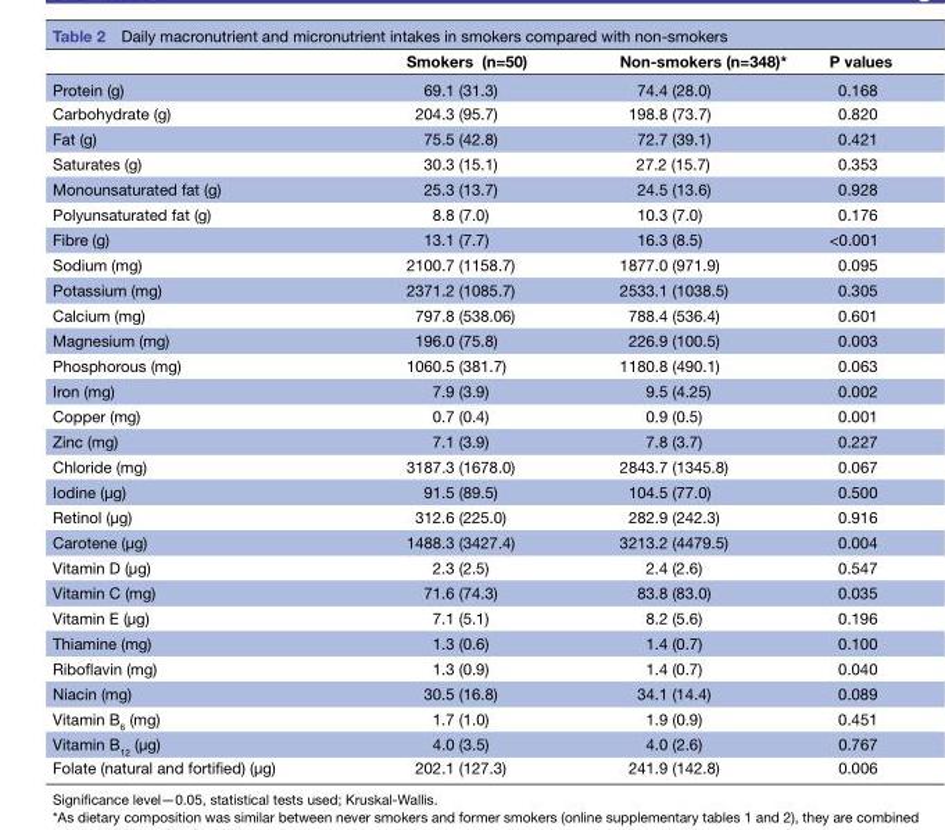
<table><thead><tr><td></td><td>Smokers (n=50)</td><td>Non-smokers (n=348)*</td><td>P values</td></tr></thead><tbody><tr><td>Protein (g)</td><td>69.1 (31.3)</td><td>74.4 (28.0)</td><td>0.168</td></tr><tr><td>Carbohydrate (g)</td><td>204.3 (95.7)</td><td>198.8 (73.7)</td><td>0.820</td></tr><tr><td>Fat (g)</td><td>75.5 (42.8)</td><td>72.7 (39.1)</td><td>0.421</td></tr><tr><td>Saturates (g)</td><td>30.3 (15.1)</td><td>27.2 (15.7)</td><td>0.353</td></tr><tr><td>Monounsaturated fat (g)</td><td>25.3 (13.7)</td><td>24.5 (13.6)</td><td>0.928</td></tr><tr><td>Polyunsaturated fat (g)</td><td>8.8 (7.0)</td><td>10.3 (7.0)</td><td>0.176</td></tr><tr><td>Fibre (g)</td><td>13.1 (7.7)</td><td>16.3 (8.5)</td><td>&lt;0.001</td></tr><tr><td>Sodium (mg)</td><td>2100.7 (1158.7)</td><td>1877.0 (971.9)</td><td>0.095</td></tr><tr><td>Potassium (mg)</td><td>2371.2 (1085.7)</td><td>2533.1 (1038.5)</td><td>0.305</td></tr><tr><td>Calcium (mg)</td><td>797.8 (538.06)</td><td>788.4 (536.4)</td><td>0.601</td></tr><tr><td>Magnesium (mg)</td><td>196.0 (75.8)</td><td>226.9 (100.5)</td><td>0.003</td></tr><tr><td>Phosphorous (mg)</td><td>1060.5 (381.7)</td><td>1180.8 (490.1)</td><td>0.063</td></tr><tr><td>Iron (mg)</td><td>7.9 (3.9)</td><td>9.5 (4.25)</td><td>0.002</td></tr><tr><td>Copper (mg)</td><td>0.7 (0.4)</td><td>0.9 (0.5)</td><td>0.001</td></tr><tr><td>Zinc (mg)</td><td>7.1 (3.9)</td><td>7.8 (3.7)</td><td>0.227</td></tr><tr><td>Chloride (mg)</td><td>3187.3 (1678.0)</td><td>2843.7 (1345.8)</td><td>0.067</td></tr><tr><td>Iodine (µg)</td><td>91.5 (89.5)</td><td>104.5 (77.0)</td><td>0.500</td></tr><tr><td>Retinol (µg)</td><td>312.6 (225.0)</td><td>282.9 (242.3)</td><td>0.916</td></tr><tr><td>Carotene (µg)</td><td>1488.3 (3427.4)</td><td>3213.2 (4479.5)</td><td>0.004</td></tr><tr><td>Vitamin D (µg)</td><td>2.3 (2.5)</td><td>2.4 (2.6)</td><td>0.547</td></tr><tr><td>Vitamin C (mg)</td><td>71.6 (74.3)</td><td>83.8 (83.0)</td><td>0.035</td></tr><tr><td>Vitamin E (µg)</td><td>7.1 (5.1)</td><td>8.2 (5.6)</td><td>0.196</td></tr><tr><td>Thiamine (mg)</td><td>1.3 (0.6)</td><td>1.4 (0.7)</td><td>0.100</td></tr><tr><td>Riboflavin (mg)</td><td>1.3 (0.9)</td><td>1.4 (0.7)</td><td>0.040</td></tr><tr><td>Niacin (mg)</td><td>30.5 (16.8)</td><td>34.1 (14.4)</td><td>0.089</td></tr><tr><td>Vitamin B<sub>6</sub> (mg)</td><td>1.7 (1.0)</td><td>1.9 (0.9)</td><td>0.451</td></tr><tr><td>Vitamin B<sub>12</sub> (µg)</td><td>4.0 (3.5)</td><td>4.0 (2.6)</td><td>0.767</td></tr><tr><td>Folate (natural and fortified) (µg)</td><td>202.1 (127.3)</td><td>241.9 (142.8)</td><td>0.006</td></tr></tbody></table>